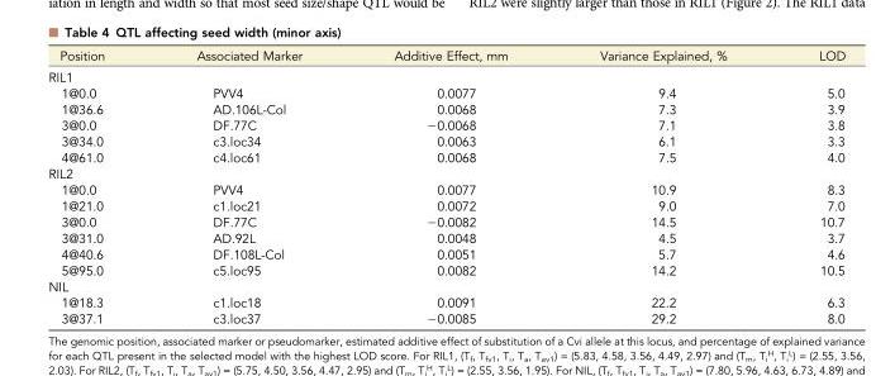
<table><thead><tr><td>Position</td><td>Associated Marker</td><td>Additive Effect, mm</td><td>Variance Explained, %</td><td>LOD</td></tr></thead><tbody><tr><td colspan="5">RIL1</td></tr><tr><td>1@0.0</td><td>PVV4</td><td>0.0077</td><td>9.4</td><td>5.0</td></tr><tr><td>1@36.6</td><td>AD.106L-Col</td><td>0.0068</td><td>7.3</td><td>3.9</td></tr><tr><td>3@0.0</td><td>DF.77C</td><td>−0.0068</td><td>7.1</td><td>3.8</td></tr><tr><td>3@34.0</td><td>c3.loc34</td><td>0.0063</td><td>6.1</td><td>3.3</td></tr><tr><td>4@61.0</td><td>c4.loc61</td><td>0.0068</td><td>7.5</td><td>4.0</td></tr><tr><td colspan="5">RIL2</td></tr><tr><td>1@0.0</td><td>PVV4</td><td>0.0077</td><td>10.9</td><td>8.3</td></tr><tr><td>1@21.0</td><td>c1.loc21</td><td>0.0072</td><td>9.0</td><td>7.0</td></tr><tr><td>3@0.0</td><td>DF.77C</td><td>−0.0082</td><td>14.5</td><td>10.7</td></tr><tr><td>3@31.0</td><td>AD.92L</td><td>0.0048</td><td>4.5</td><td>3.7</td></tr><tr><td>4@40.6</td><td>DF.108L-Col</td><td>0.0051</td><td>5.7</td><td>4.6</td></tr><tr><td>5@95.0</td><td>c5.loc95</td><td>0.0082</td><td>14.2</td><td>10.5</td></tr><tr><td colspan="5">NIL</td></tr><tr><td>1@18.3</td><td>c1.loc18</td><td>0.0091</td><td>22.2</td><td>6.3</td></tr><tr><td>3@37.1</td><td>c3.loc37</td><td>−0.0085</td><td>29.2</td><td>8.0</td></tr></tbody></table>